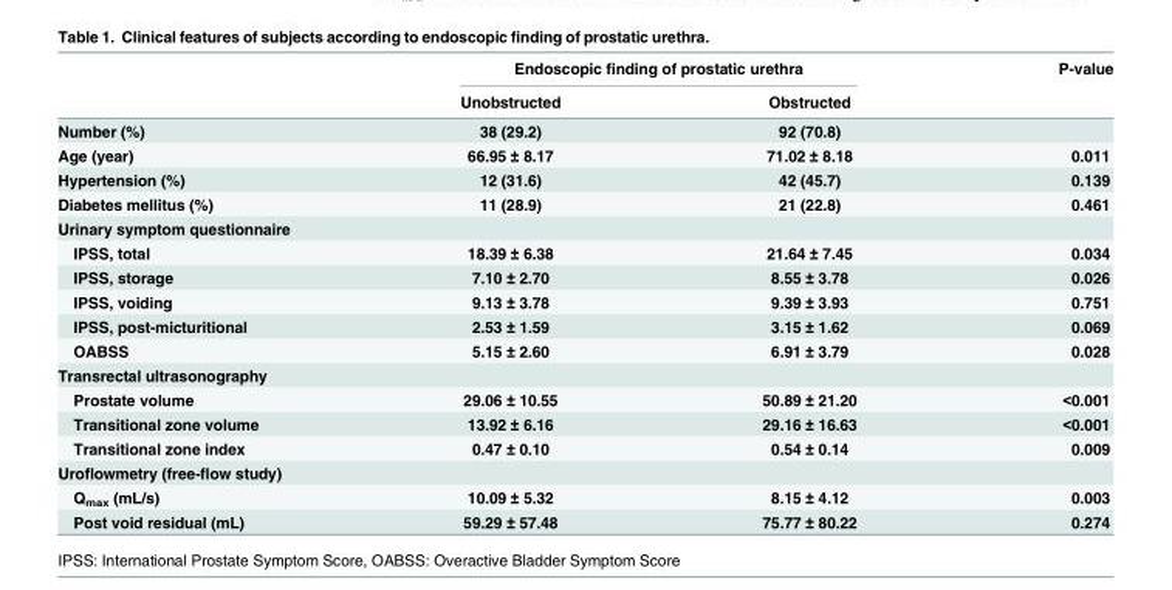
<table><thead><tr><td rowspan="2"></td><td colspan="2">Endoscopic finding of prostatic urethra</td><td rowspan="2">P-value</td></tr><tr><td>Unobstructed</td><td>Obstructed</td></tr></thead><tbody><tr><td>Number (%)</td><td>38 (29.2)</td><td>92 (70.8)</td><td></td></tr><tr><td>Age (year)</td><td>66.95 ± 8.17</td><td>71.02 ± 8.18</td><td>0.011</td></tr><tr><td>Hypertension (%)</td><td>12 (31.6)</td><td>42 (45.7)</td><td>0.139</td></tr><tr><td>Diabetes mellitus (%)</td><td>11 (28.9)</td><td>21 (22.8)</td><td>0.461</td></tr><tr><td colspan="4">Urinary symptom questionnaire</td></tr><tr><td>IPSS, total</td><td>18.39 ± 6.38</td><td>21.64 ± 7.45</td><td>0.034</td></tr><tr><td>IPSS, storage</td><td>7.10 ± 2.70</td><td>8.55 ± 3.78</td><td>0.026</td></tr><tr><td>IPSS, voiding</td><td>9.13 ± 3.78</td><td>9.39 ± 3.93</td><td>0.751</td></tr><tr><td>IPSS, post-micturitional</td><td>2.53 ± 1.59</td><td>3.15 ± 1.62</td><td>0.069</td></tr><tr><td>OABSS</td><td>5.15 ± 2.60</td><td>6.91 ± 3.79</td><td>0.028</td></tr><tr><td colspan="4">Transrectal ultrasonography</td></tr><tr><td>Prostate volume</td><td>29.06 ± 10.55</td><td>50.89 ± 21.20</td><td>&lt;0.001</td></tr><tr><td>Transitional zone volume</td><td>13.92 ± 6.16</td><td>29.16 ± 16.63</td><td>&lt;0.001</td></tr><tr><td>Transitional zone index</td><td>0.47 ± 0.10</td><td>0.54 ± 0.14</td><td>0.009</td></tr><tr><td colspan="4">Uroflowmetry (free-flow study)</td></tr><tr><td>Q<sub>max</sub> (mL/s)</td><td>10.09 ± 5.32</td><td>8.15 ± 4.12</td><td>0.003</td></tr><tr><td>Post void residual (mL)</td><td>59.29 ± 57.48</td><td>75.77 ± 80.22</td><td>0.274</td></tr></tbody></table>